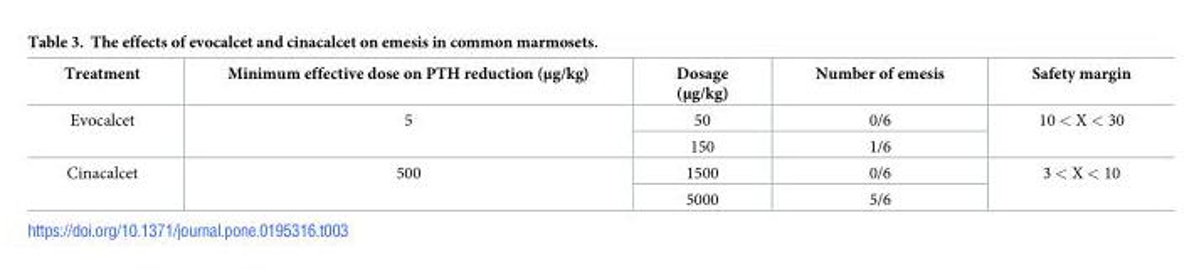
<table><thead><tr><td>Treatment</td><td>Minimum effective dose on PTH reduction (μg/kg)</td><td>Dosage (μg/kg)</td><td>Number of emesis</td><td>Safety margin</td></tr></thead><tbody><tr><td rowspan="2">Evocalcet</td><td rowspan="2">5</td><td>50</td><td>0/6</td><td rowspan="2">10 &lt; X &lt; 30</td></tr><tr><td>150</td><td>1/6</td></tr><tr><td rowspan="2">Cinacalcet</td><td rowspan="2">500</td><td>1500</td><td>0/6</td><td rowspan="2">3 &lt; X &lt; 10</td></tr><tr><td>5000</td><td>5/6</td></tr></tbody></table>